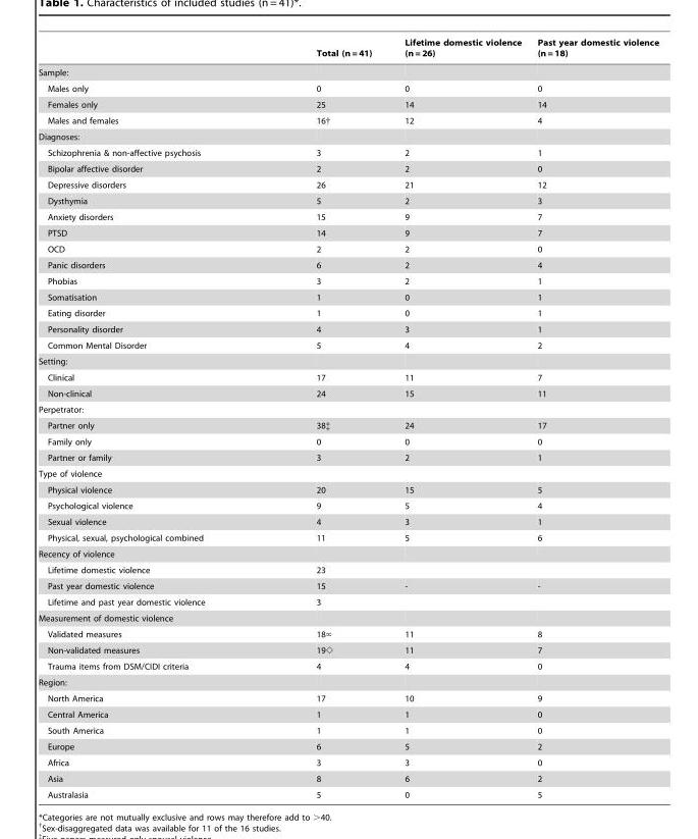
<table><thead><tr><td></td><td>Total (n = 41)</td><td>Lifetime domestic violence (n = 26)</td><td>Past year domestic violence (n = 18)</td></tr></thead><tbody><tr><td colspan="4">Sample:</td></tr><tr><td>Males only</td><td>0</td><td>0</td><td>0</td></tr><tr><td>Females only</td><td>25</td><td>14</td><td>14</td></tr><tr><td>Males and females</td><td>16†</td><td>12</td><td>4</td></tr><tr><td colspan="4">Diagnoses:</td></tr><tr><td>Schizophrenia &amp; non-affective psychosis</td><td>3</td><td>2</td><td>1</td></tr><tr><td>Bipolar affective disorder</td><td>2</td><td>2</td><td>0</td></tr><tr><td>Depressive disorders</td><td>26</td><td>21</td><td>12</td></tr><tr><td>Dysthymia</td><td>5</td><td>2</td><td>3</td></tr><tr><td>Anxiety disorders</td><td>15</td><td>9</td><td>7</td></tr><tr><td>PTSD</td><td>14</td><td>9</td><td>7</td></tr><tr><td>OCD</td><td>2</td><td>2</td><td>0</td></tr><tr><td>Panic disorders</td><td>6</td><td>2</td><td>4</td></tr><tr><td>Phobias</td><td>3</td><td>2</td><td>1</td></tr><tr><td>Somatisation</td><td>1</td><td>0</td><td>1</td></tr><tr><td>Eating disorder</td><td>1</td><td>0</td><td>1</td></tr><tr><td>Personality disorder</td><td>4</td><td>3</td><td>1</td></tr><tr><td>Common Mental Disorder</td><td>5</td><td>4</td><td>2</td></tr><tr><td colspan="4">Setting:</td></tr><tr><td>Clinical</td><td>17</td><td>11</td><td>7</td></tr><tr><td>Non-clinical</td><td>24</td><td>15</td><td>11</td></tr><tr><td colspan="4">Perpetrator:</td></tr><tr><td>Partner only</td><td>38‡</td><td>24</td><td>17</td></tr><tr><td>Family only</td><td>0</td><td>0</td><td>0</td></tr><tr><td>Partner or family</td><td>3</td><td>2</td><td>1</td></tr><tr><td colspan="4">Type of violence</td></tr><tr><td>Physical violence</td><td>20</td><td>15</td><td>5</td></tr><tr><td>Psychological violence</td><td>9</td><td>5</td><td>4</td></tr><tr><td>Sexual violence</td><td>4</td><td>3</td><td>1</td></tr><tr><td>Physical, sexual, psychological combined</td><td>11</td><td>5</td><td>6</td></tr><tr><td colspan="4">Recency of violence</td></tr><tr><td>Lifetime domestic violence</td><td>23</td><td></td><td></td></tr><tr><td>Past year domestic violence</td><td>15</td><td>-</td><td>-</td></tr><tr><td>Lifetime and past year domestic violence</td><td>3</td><td></td><td></td></tr><tr><td colspan="4">Measurement of domestic violence</td></tr><tr><td>Validated measures</td><td>18‘</td><td>11</td><td>8</td></tr><tr><td>Non-validated measures</td><td>19◊</td><td>11</td><td>7</td></tr><tr><td>Trauma items from DSM/CIDI criteria</td><td>4</td><td>4</td><td>0</td></tr><tr><td colspan="4">Region:</td></tr><tr><td>North America</td><td>17</td><td>10</td><td>9</td></tr><tr><td>Central America</td><td>1</td><td>1</td><td>0</td></tr><tr><td>South America</td><td>1</td><td>1</td><td>0</td></tr><tr><td>Europe</td><td>6</td><td>5</td><td>2</td></tr><tr><td>Africa</td><td>3</td><td>3</td><td>0</td></tr><tr><td>Asia</td><td>8</td><td>6</td><td>2</td></tr><tr><td>Australasia</td><td>5</td><td>0</td><td>5</td></tr></tbody></table>